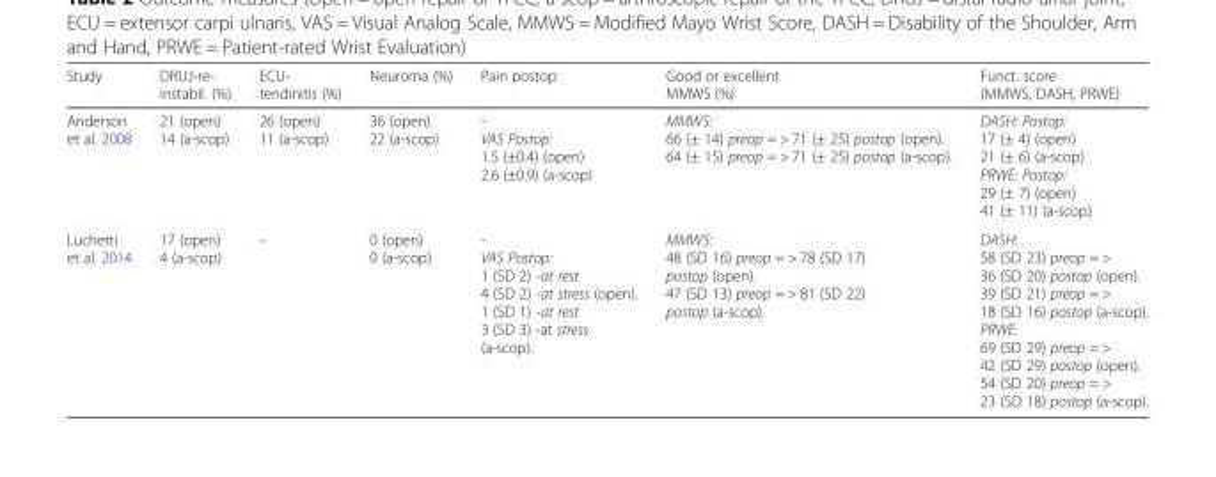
<table><thead><tr><td>Study</td><td>DRUJ-re- instabil. (%)</td><td>ECU- tendinitis (%)</td><td>Neuroma (%)</td><td>Pain postop</td><td>Good or excellent MMWS (%)</td><td>Funct. score (MMWS, DASH, PRWE)</td></tr></thead><tbody><tr><td>Anderson et al. 2008</td><td>21 (open) 14 (a-scop)</td><td>26 (open) 11 (a-scop)</td><td>36 (open) 22 (a-scop)</td><td>- VAS Postop: 1.5 (±0.4) (open) 2.6 (±0.9) (a-scop)</td><td>MMWS: 66 (± 14) preop = &gt; 71 (± 25) postop (open). 64 (± 15) preop = &gt; 71 (± 25) postop (a-scop).</td><td>DASH: Postop: 17 (± 4) (open) 21 (± 6) (a-scop) PRWE: Postop: 29 (± 7) (open) 41 (± 11) (a-scop)</td></tr><tr><td>Luchetti et al. 2014</td><td>17 (open) 4 (a-scop)</td><td>–</td><td>0 (open) 0 (a-scop)</td><td>- VAS Postop: 1 (SD 2) -at rest 4 (SD 2) -at stress (open). 1 (SD 1) -at rest 3 (SD 3) -at stress (a-scop).</td><td>MMWS: 48 (SD 16) preop = &gt; 78 (SD 17) postop (open). 47 (SD 13) preop = &gt; 81 (SD 22) postop (a-scop).</td><td>DASH: 58 (SD 23) preop = &gt; 36 (SD 20) postop (open). 39 (SD 21) preop = &gt; 18 (SD 16) postop (a-scop). PRWE: 69 (SD 29) preop = &gt; 42 (SD 29) postop (open). 54 (SD 20) preop = &gt; 23 (SD 18) postop (a-scop).</td></tr></tbody></table>